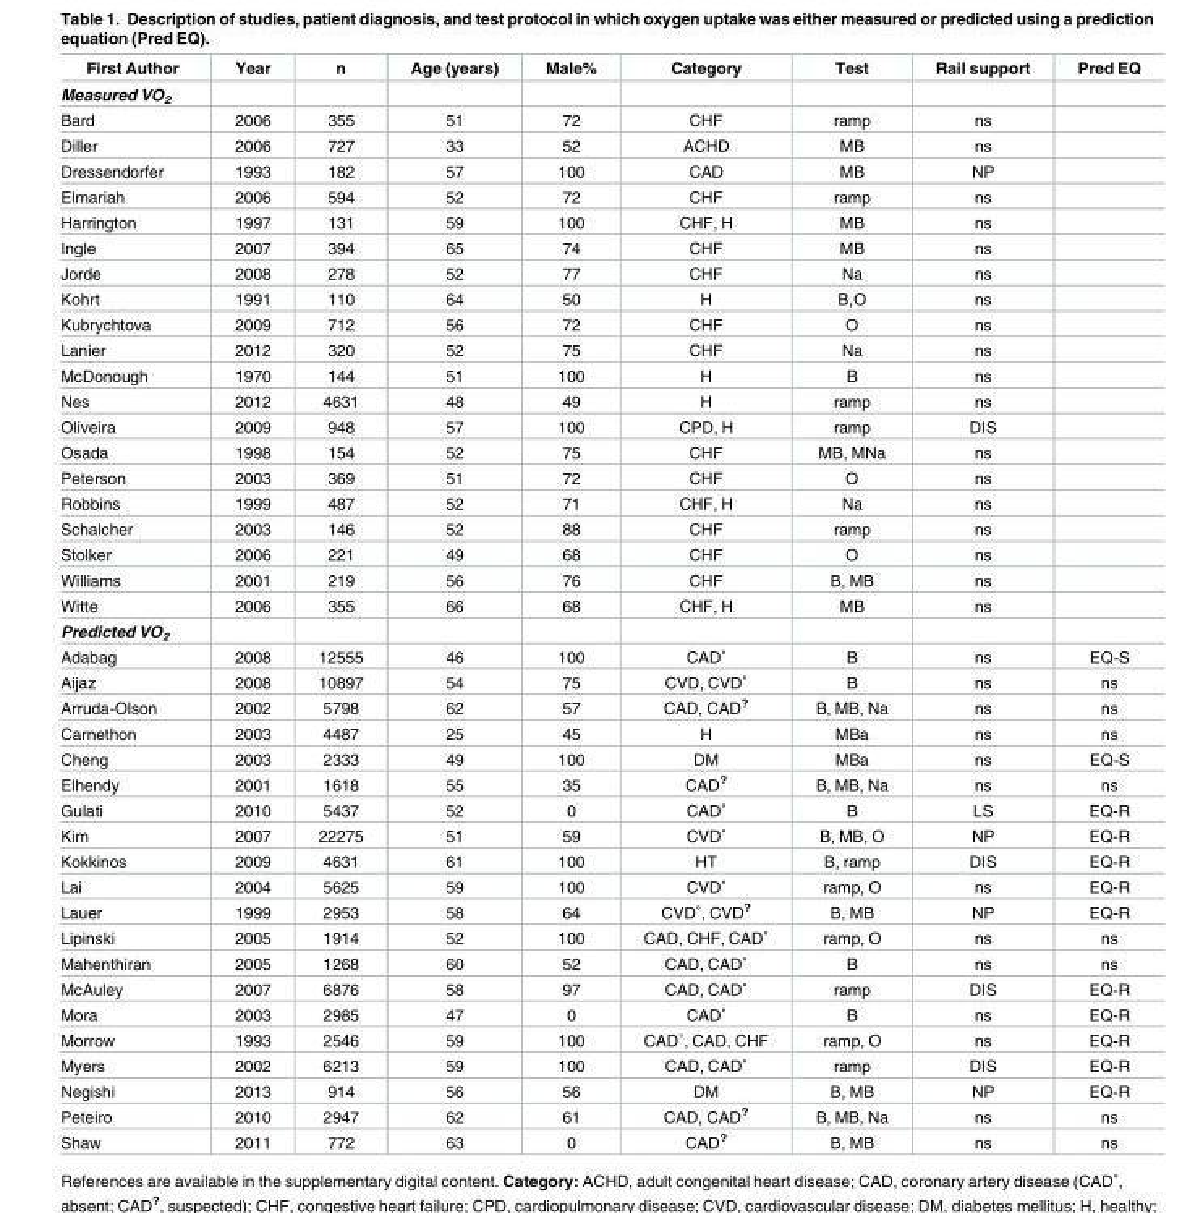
<table><thead><tr><td>First Author</td><td>Year</td><td>n</td><td>Age (years)</td><td>Male%</td><td>Category</td><td>Test</td><td>Rail support</td><td>Pred EQ</td></tr></thead><tbody><tr><td colspan="9">Measured VO<sub>2</sub></td></tr><tr><td>Bard</td><td>2006</td><td>355</td><td>51</td><td>72</td><td>CHF</td><td>ramp</td><td>ns</td><td></td></tr><tr><td>Diller</td><td>2006</td><td>727</td><td>33</td><td>52</td><td>ACHD</td><td>MB</td><td>ns</td><td></td></tr><tr><td>Dressendorfer</td><td>1993</td><td>182</td><td>57</td><td>100</td><td>CAD</td><td>MB</td><td>NP</td><td></td></tr><tr><td>Elmariah</td><td>2006</td><td>594</td><td>52</td><td>72</td><td>CHF</td><td>ramp</td><td>ns</td><td></td></tr><tr><td>Harrington</td><td>1997</td><td>131</td><td>59</td><td>100</td><td>CHF, H</td><td>MB</td><td>ns</td><td></td></tr><tr><td>Ingle</td><td>2007</td><td>394</td><td>65</td><td>74</td><td>CHF</td><td>MB</td><td>ns</td><td></td></tr><tr><td>Jorde</td><td>2008</td><td>278</td><td>52</td><td>77</td><td>CHF</td><td>Na</td><td>ns</td><td></td></tr><tr><td>Kohrt</td><td>1991</td><td>110</td><td>64</td><td>50</td><td>H</td><td>B,O</td><td>ns</td><td></td></tr><tr><td>Kubrychtova</td><td>2009</td><td>712</td><td>56</td><td>72</td><td>CHF</td><td>O</td><td>ns</td><td></td></tr><tr><td>Lanier</td><td>2012</td><td>320</td><td>52</td><td>75</td><td>CHF</td><td>Na</td><td>ns</td><td></td></tr><tr><td>McDonough</td><td>1970</td><td>144</td><td>51</td><td>100</td><td>H</td><td>B</td><td>ns</td><td></td></tr><tr><td>Nes</td><td>2012</td><td>4631</td><td>48</td><td>49</td><td>H</td><td>ramp</td><td>ns</td><td></td></tr><tr><td>Oliveira</td><td>2009</td><td>948</td><td>57</td><td>100</td><td>CPD, H</td><td>ramp</td><td>DIS</td><td></td></tr><tr><td>Osada</td><td>1998</td><td>154</td><td>52</td><td>75</td><td>CHF</td><td>MB, MNa</td><td>ns</td><td></td></tr><tr><td>Peterson</td><td>2003</td><td>369</td><td>51</td><td>72</td><td>CHF</td><td>O</td><td>ns</td><td></td></tr><tr><td>Robbins</td><td>1999</td><td>487</td><td>52</td><td>71</td><td>CHF, H</td><td>Na</td><td>ns</td><td></td></tr><tr><td>Schalcher</td><td>2003</td><td>146</td><td>52</td><td>88</td><td>CHF</td><td>ramp</td><td>ns</td><td></td></tr><tr><td>Stolker</td><td>2006</td><td>221</td><td>49</td><td>68</td><td>CHF</td><td>O</td><td>ns</td><td></td></tr><tr><td>Williams</td><td>2001</td><td>219</td><td>56</td><td>76</td><td>CHF</td><td>B, MB</td><td>ns</td><td></td></tr><tr><td>Witte</td><td>2006</td><td>355</td><td>66</td><td>68</td><td>CHF, H</td><td>MB</td><td>ns</td><td></td></tr><tr><td colspan="9">Predicted VO<sub>2</sub></td></tr><tr><td>Adabag</td><td>2008</td><td>12555</td><td>46</td><td>100</td><td>CAD˚</td><td>B</td><td>ns</td><td>EQ-S</td></tr><tr><td>Aijaz</td><td>2008</td><td>10897</td><td>54</td><td>75</td><td>CVD, CVD˚</td><td>B</td><td>ns</td><td>ns</td></tr><tr><td>Arruda-Olson</td><td>2002</td><td>5798</td><td>62</td><td>57</td><td>CAD, CAD<sup>?</sup></td><td>B, MB, Na</td><td>ns</td><td>ns</td></tr><tr><td>Carnethon</td><td>2003</td><td>4487</td><td>25</td><td>45</td><td>H</td><td>MBa</td><td>ns</td><td>ns</td></tr><tr><td>Cheng</td><td>2003</td><td>2333</td><td>49</td><td>100</td><td>DM</td><td>MBa</td><td>ns</td><td>EQ-S</td></tr><tr><td>Elhendy</td><td>2001</td><td>1618</td><td>55</td><td>35</td><td>CAD<sup>?</sup></td><td>B, MB, Na</td><td>ns</td><td>ns</td></tr><tr><td>Gulati</td><td>2010</td><td>5437</td><td>52</td><td>0</td><td>CAD˚</td><td>B</td><td>LS</td><td>EQ-R</td></tr><tr><td>Kim</td><td>2007</td><td>22275</td><td>51</td><td>59</td><td>CVD˚</td><td>B, MB, O</td><td>NP</td><td>EQ-R</td></tr><tr><td>Kokkinos</td><td>2009</td><td>4631</td><td>61</td><td>100</td><td>HT</td><td>B, ramp</td><td>DIS</td><td>EQ-R</td></tr><tr><td>Lai</td><td>2004</td><td>5625</td><td>59</td><td>100</td><td>CVD˚</td><td>ramp, O</td><td>ns</td><td>EQ-R</td></tr><tr><td>Lauer</td><td>1999</td><td>2953</td><td>58</td><td>64</td><td>CVD˚, CVD?</td><td>B, MB</td><td>NP</td><td>EQ-R</td></tr><tr><td>Lipinski</td><td>2005</td><td>1914</td><td>52</td><td>100</td><td>CAD, CHF, CAD˚</td><td>ramp, O</td><td>ns</td><td>ns</td></tr><tr><td>Mahenthiran</td><td>2005</td><td>1268</td><td>60</td><td>52</td><td>CAD, CAD˚</td><td>B</td><td>ns</td><td>ns</td></tr><tr><td>McAuley</td><td>2007</td><td>6876</td><td>58</td><td>97</td><td>CAD, CAD˚</td><td>ramp</td><td>DIS</td><td>EQ-R</td></tr><tr><td>Mora</td><td>2003</td><td>2985</td><td>47</td><td>0</td><td>CAD˚</td><td>B</td><td>ns</td><td>EQ-R</td></tr><tr><td>Morrow</td><td>1993</td><td>2546</td><td>59</td><td>100</td><td>CAD˚, CAD, CHF</td><td>ramp, O</td><td>ns</td><td>EQ-R</td></tr><tr><td>Myers</td><td>2002</td><td>6213</td><td>59</td><td>100</td><td>CAD, CAD˚</td><td>ramp</td><td>DIS</td><td>EQ-R</td></tr><tr><td>Negishi</td><td>2013</td><td>914</td><td>56</td><td>56</td><td>DM</td><td>B, MB</td><td>NP</td><td>EQ-R</td></tr><tr><td>Peteiro</td><td>2010</td><td>2947</td><td>62</td><td>61</td><td>CAD, CAD<sup>?</sup></td><td>B, MB, Na</td><td>ns</td><td>ns</td></tr><tr><td>Shaw</td><td>2011</td><td>772</td><td>63</td><td>0</td><td>CAD<sup>?</sup></td><td>B, MB</td><td>ns</td><td>ns</td></tr></tbody></table>